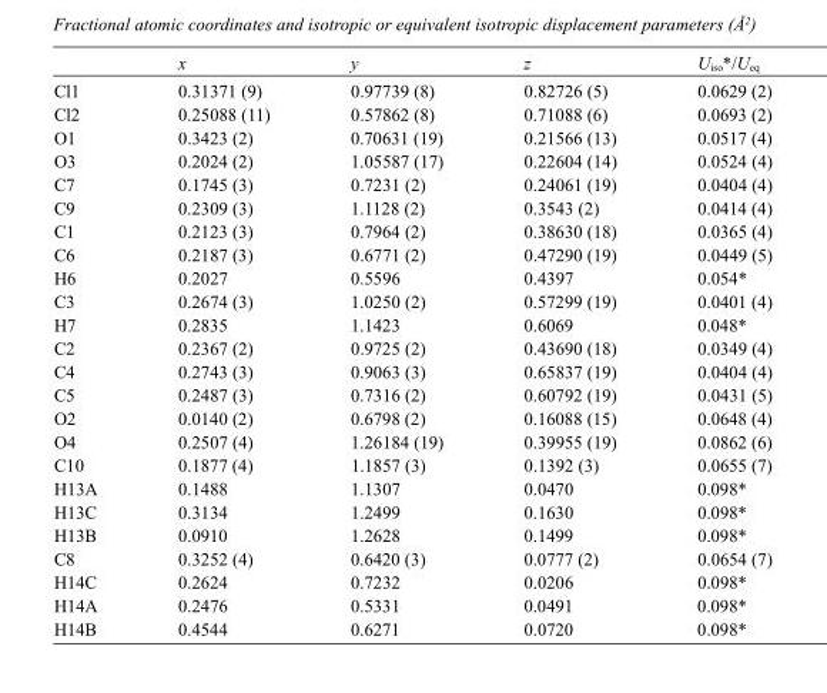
<table><thead><tr><td></td><td>x</td><td>y</td><td>z</td><td>U<sub>iso</sub>*/U<sub>eq</sub></td></tr></thead><tbody><tr><td>Cl1</td><td>0.31371 (9)</td><td>0.97739 (8)</td><td>0.82726 (5)</td><td>0.0629 (2)</td></tr><tr><td>Cl2</td><td>0.25088 (11)</td><td>0.57862 (8)</td><td>0.71088 (6)</td><td>0.0693 (2)</td></tr><tr><td>O1</td><td>0.3423 (2)</td><td>0.70631 (19)</td><td>0.21566 (13)</td><td>0.0517 (4)</td></tr><tr><td>O3</td><td>0.2024 (2)</td><td>1.05587 (17)</td><td>0.22604 (14)</td><td>0.0524 (4)</td></tr><tr><td>C7</td><td>0.1745 (3)</td><td>0.7231 (2)</td><td>0.24061 (19)</td><td>0.0404 (4)</td></tr><tr><td>C9</td><td>0.2309 (3)</td><td>1.1128 (2)</td><td>0.3543 (2)</td><td>0.0414 (4)</td></tr><tr><td>C1</td><td>0.2123 (3)</td><td>0.7964 (2)</td><td>0.38630 (18)</td><td>0.0365 (4)</td></tr><tr><td>C6</td><td>0.2187 (3)</td><td>0.6771 (2)</td><td>0.47290 (19)</td><td>0.0449 (5)</td></tr><tr><td>H6</td><td>0.2027</td><td>0.5596</td><td>0.4397</td><td>0.054*</td></tr><tr><td>C3</td><td>0.2674 (3)</td><td>1.0250 (2)</td><td>0.57299 (19)</td><td>0.0401 (4)</td></tr><tr><td>H7</td><td>0.2835</td><td>1.1423</td><td>0.6069</td><td>0.048*</td></tr><tr><td>C2</td><td>0.2367 (2)</td><td>0.9725 (2)</td><td>0.43690 (18)</td><td>0.0349 (4)</td></tr><tr><td>C4</td><td>0.2743 (3)</td><td>0.9063 (3)</td><td>0.65837 (19)</td><td>0.0404 (4)</td></tr><tr><td>C5</td><td>0.2487 (3)</td><td>0.7316 (2)</td><td>0.60792 (19)</td><td>0.0431 (5)</td></tr><tr><td>O2</td><td>0.0140 (2)</td><td>0.6798 (2)</td><td>0.16088 (15)</td><td>0.0648 (4)</td></tr><tr><td>O4</td><td>0.2507 (4)</td><td>1.26184 (19)</td><td>0.39955 (19)</td><td>0.0862 (6)</td></tr><tr><td>C10</td><td>0.1877 (4)</td><td>1.1857 (3)</td><td>0.1392 (3)</td><td>0.0655 (7)</td></tr><tr><td>H13A</td><td>0.1488</td><td>1.1307</td><td>0.0470</td><td>0.098*</td></tr><tr><td>H13C</td><td>0.3134</td><td>1.2499</td><td>0.1630</td><td>0.098*</td></tr><tr><td>H13B</td><td>0.0910</td><td>1.2628</td><td>0.1499</td><td>0.098*</td></tr><tr><td>C8</td><td>0.3252 (4)</td><td>0.6420 (3)</td><td>0.0777 (2)</td><td>0.0654 (7)</td></tr><tr><td>H14C</td><td>0.2624</td><td>0.7232</td><td>0.0206</td><td>0.098*</td></tr><tr><td>H14A</td><td>0.2476</td><td>0.5331</td><td>0.0491</td><td>0.098*</td></tr><tr><td>H14B</td><td>0.4544</td><td>0.6271</td><td>0.0720</td><td>0.098*</td></tr></tbody></table>